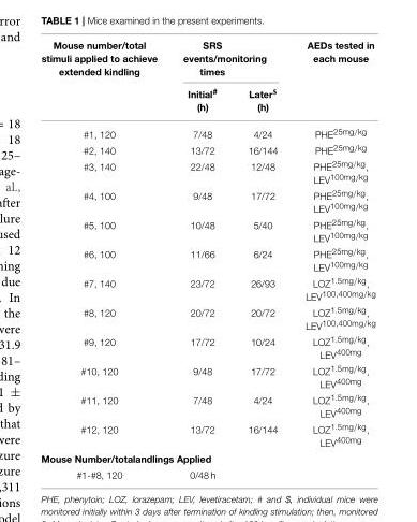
<table><thead><tr><td rowspan="2">Mouse number/total stimuli applied to achieve extended kindling</td><td colspan="2">SRS events/monitoring times</td><td rowspan="2">AEDs tested in each mouse</td></tr><tr><td>Initial<sup>#</sup> (h)</td><td>Later<sup>$</sup> (h)</td></tr></thead><tbody><tr><td>#1, 120</td><td>7/48</td><td>4/24</td><td>PHE<sup>25mg/kg</sup></td></tr><tr><td>#2, 140</td><td>13/72</td><td>16/144</td><td>PHE<sup>25mg/kg</sup></td></tr><tr><td>#3, 140</td><td>22/48</td><td>12/48</td><td>PHE<sup>25mg/kg</sup>, LEV<sup>100mg/kg</sup></td></tr><tr><td>#4, 100</td><td>9/48</td><td>17/72</td><td>PHE<sup>25mg/kg</sup>, LEV<sup>100mg/kg</sup></td></tr><tr><td>#5, 100</td><td>10/48</td><td>5/40</td><td>PHE<sup>25mg/kg</sup>, LEV<sup>100mg/kg</sup></td></tr><tr><td>#6, 100</td><td>11/66</td><td>6/24</td><td>PHE<sup>25mg/kg</sup>, LEV<sup>100mg/kg</sup></td></tr><tr><td>#7, 140</td><td>23/72</td><td>26/93</td><td>LOZ<sup>1.5mg/kg</sup>, LEV<sup>100,400mg/kg</sup></td></tr><tr><td>#8, 120</td><td>20/72</td><td>20/72</td><td>LOZ<sup>1.5mg/kg</sup>, LEV<sup>100,400mg/kg</sup></td></tr><tr><td>#9, 120</td><td>17/72</td><td>10/24</td><td>LOZ<sup>1.5mg/kg</sup>, LEV<sup>400mg</sup></td></tr><tr><td>#10, 120</td><td>9/48</td><td>17/72</td><td>LOZ<sup>1.5mg/kg</sup>, LEV<sup>400mg</sup></td></tr><tr><td>#11, 120</td><td>7/48</td><td>4/24</td><td>LOZ<sup>1.5mg/kg</sup>, LEV<sup>400mg</sup></td></tr><tr><td>#12, 120</td><td>13/72</td><td>16/144</td><td>LOZ<sup>1.5mg/kg</sup>, LEV<sup>400mg</sup></td></tr><tr><td colspan="4">Mouse Number/totalandlings Applied</td></tr><tr><td>#1-#8, 120</td><td>0/48 h</td><td></td><td></td></tr></tbody></table>